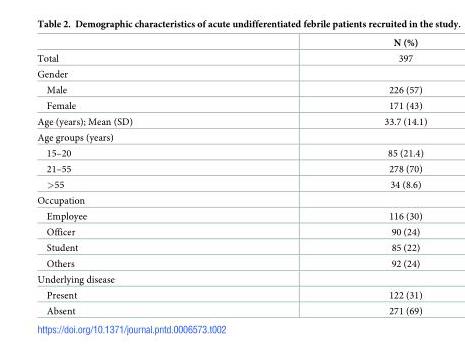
<table><thead><tr><td></td><td>N (%)</td></tr></thead><tbody><tr><td>Total</td><td>397</td></tr><tr><td colspan="2">Gender</td></tr><tr><td>Male</td><td>226 (57)</td></tr><tr><td>Female</td><td>171 (43)</td></tr><tr><td>Age (years); Mean (SD)</td><td>33.7 (14.1)</td></tr><tr><td colspan="2">Age groups (years)</td></tr><tr><td>15–20</td><td>85 (21.4)</td></tr><tr><td>21–55</td><td>278 (70)</td></tr><tr><td>&gt;55</td><td>34 (8.6)</td></tr><tr><td colspan="2">Occupation</td></tr><tr><td>Employee</td><td>116 (30)</td></tr><tr><td>Officer</td><td>90 (24)</td></tr><tr><td>Student</td><td>85 (22)</td></tr><tr><td>Others</td><td>92 (24)</td></tr><tr><td colspan="2">Underlying disease</td></tr><tr><td>Present</td><td>122 (31)</td></tr><tr><td>Absent</td><td>271 (69)</td></tr></tbody></table>